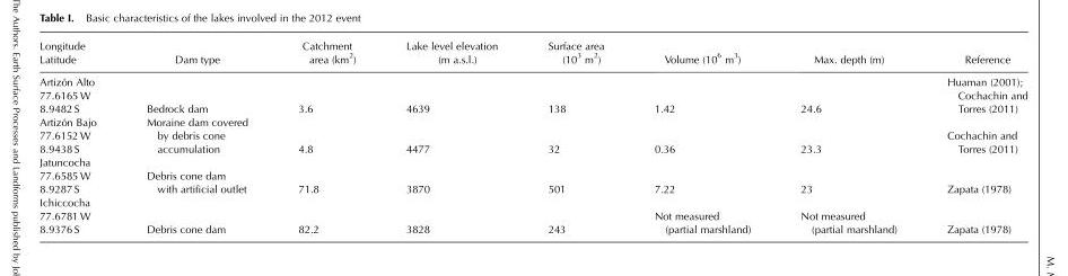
<table><thead><tr><td>Longitude Latitude</td><td>Dam type</td><td>Catchment area (km<sup>2</sup>)</td><td>Lake level elevation (m a.s.l.)</td><td>Surface area (10<sup>3</sup> m<sup>2</sup>)</td><td>Volume (10<sup>6</sup> m<sup>3</sup>)</td><td>Max. depth (m)</td><td>Reference</td></tr></thead><tbody><tr><td>Artizón Alto 77.6165 W 8.9482 S</td><td>Bedrock dam</td><td>3.6</td><td>4639</td><td>138</td><td>1.42</td><td>24.6</td><td>Huaman (2001); Cochachin and Torres (2011)</td></tr><tr><td>Artizón Bajo 77.6152 W 8.9438 S</td><td>Moraine dam covered by debris cone accumulation</td><td>4.8</td><td>4477</td><td>32</td><td>0.36</td><td>23.3</td><td>Cochachin and Torres (2011)</td></tr><tr><td>Jatuncocha 77.6585 W 8.9287 S</td><td>Debris cone dam with artificial outlet</td><td>71.8</td><td>3870</td><td>501</td><td>7.22</td><td>23</td><td>Zapata (1978)</td></tr><tr><td>Ichiccocha 77.6781 W 8.9376 S</td><td>Debris cone dam</td><td>82.2</td><td>3828</td><td>243</td><td>Not measured (partial marshland)</td><td>Not measured (partial marshland)</td><td>Zapata (1978)</td></tr></tbody></table>